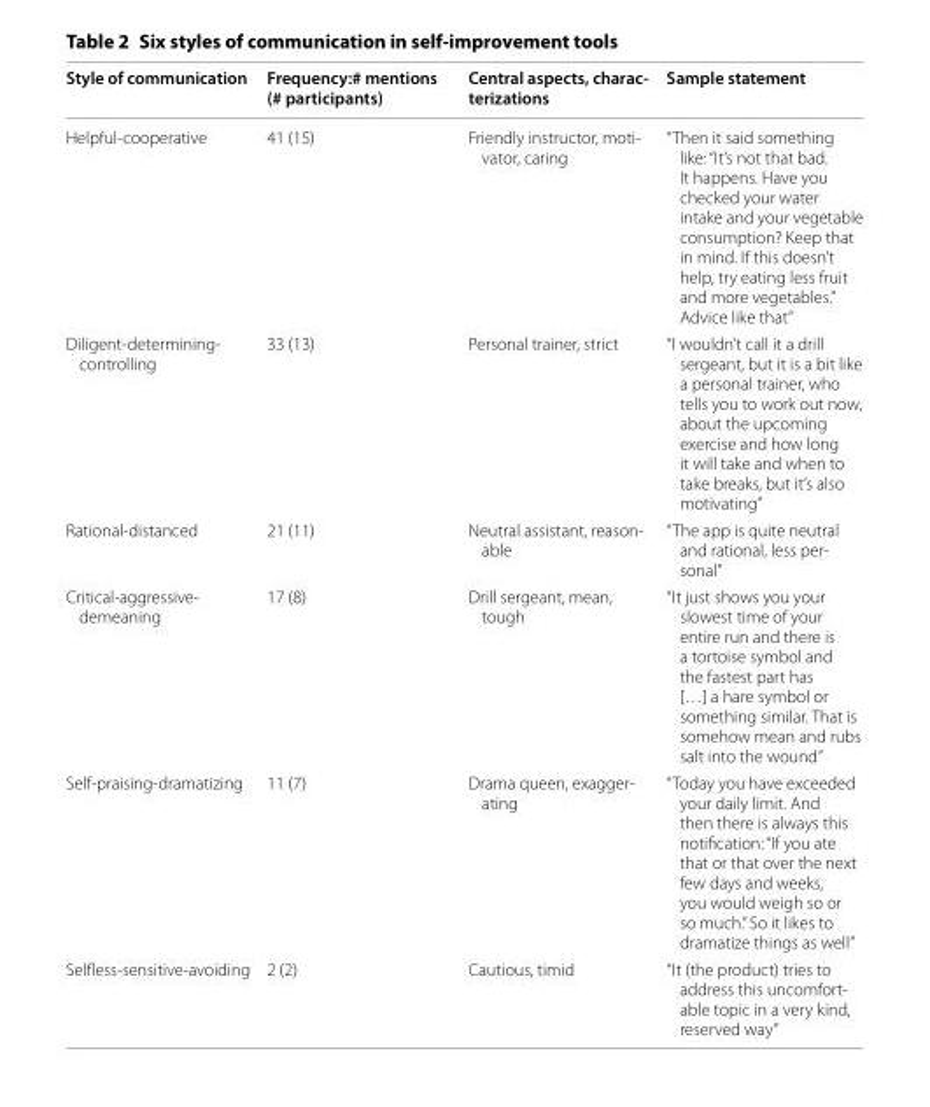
<table><thead><tr><td>Style of communication</td><td>Frequency:# mentions (# participants)</td><td>Central aspects, charac‑ terizations</td><td>Sample statement</td></tr></thead><tbody><tr><td>Helpful-cooperative</td><td>41 (15)</td><td>Friendly instructor, moti- vator, caring</td><td>“Then it said something like: “It’s not that bad. It happens. Have you checked your water intake and your vegetable consumption? Keep that in mind. If this doesn’t help, try eating less fruit and more vegetables.” Advice like that”</td></tr><tr><td>Diligent-determining- controlling</td><td>33 (13)</td><td>Personal trainer, strict</td><td>“I wouldn’t call it a drill sergeant, but it is a bit like a personal trainer, who tells you to work out now, about the upcoming exercise and how long it will take and when to take breaks, but it’s also motivating”</td></tr><tr><td>Rational-distanced</td><td>21 (11)</td><td>Neutral assistant, reason- able</td><td>“The app is quite neutral and rational, less per- sonal”</td></tr><tr><td>Critical-aggressive- demeaning</td><td>17 (8)</td><td>Drill sergeant, mean, tough</td><td>“It just shows you your slowest time of your entire run and there is a tortoise symbol and the fastest part has […] a hare symbol or something similar. That is somehow mean and rubs salt into the wound”</td></tr><tr><td>Self-praising-dramatizing</td><td>11 (7)</td><td>Drama queen, exagger- ating</td><td>“Today you have exceeded your daily limit. And then there is always this notification: “If you ate that or that over the next few days and weeks, you would weigh so or so much.” So it likes to dramatize things as well”</td></tr><tr><td>Selfless-sensitive-avoiding</td><td>2 (2)</td><td>Cautious, timid</td><td>“It (the product) tries to address this uncomfort- able topic in a very kind, reserved way”</td></tr></tbody></table>